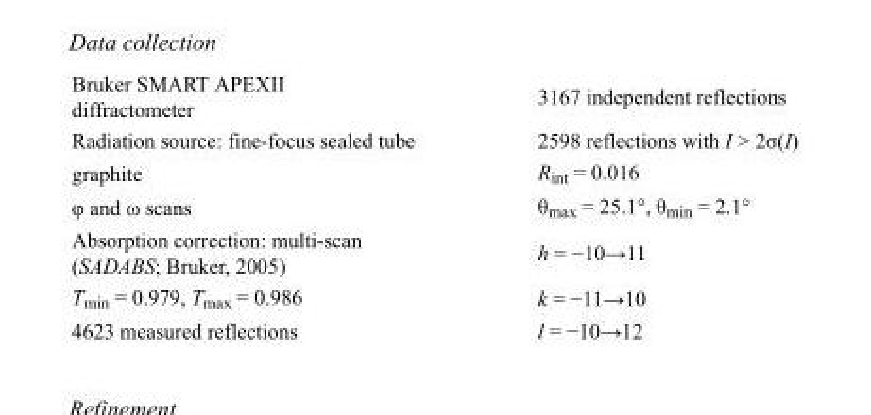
<table><tbody><tr><td>Bruker SMART APEXII diffractometer</td><td>3167 independent reflections</td></tr><tr><td>Radiation source: fine-focus sealed tube</td><td>2598 reflections with I &gt; 2σ(I)</td></tr><tr><td>graphite</td><td>R<sub>int</sub> = 0.016</td></tr><tr><td>φ and ω scans</td><td>θ<sub>max</sub> = 25.1°, θ<sub>min</sub> = 2.1°</td></tr><tr><td>Absorption correction: multi-scan (SADABS; Bruker, 2005)</td><td>h = −10→11</td></tr><tr><td>T<sub>min</sub> = 0.979, T<sub>max</sub> = 0.986</td><td>k = −11→10</td></tr><tr><td>4623 measured reflections</td><td>l = −10→12</td></tr></tbody></table>